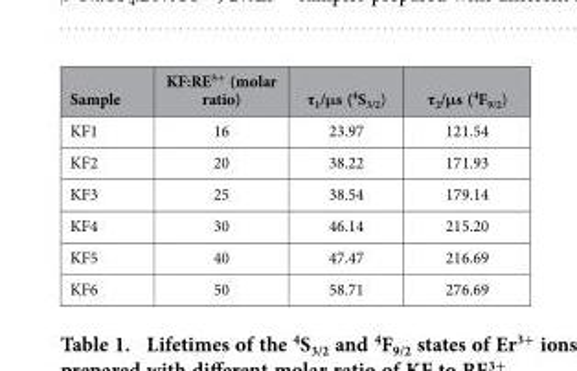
<table><thead><tr><td>Sample</td><td>KF:RE<sup>3+</sup> (molar ratio)</td><td>τ<sub>1</sub>/μs (<sup>4</sup>S<sub>3/2</sub>)</td><td>τ<sub>2</sub>/μs (<sup>4</sup>F<sub>9/2</sub>)</td></tr></thead><tbody><tr><td>KF1</td><td>16</td><td>23.97</td><td>121.54</td></tr><tr><td>KF2</td><td>20</td><td>38.22</td><td>171.93</td></tr><tr><td>KF3</td><td>25</td><td>38.54</td><td>179.14</td></tr><tr><td>KF4</td><td>30</td><td>46.14</td><td>215.20</td></tr><tr><td>KF5</td><td>40</td><td>47.47</td><td>216.69</td></tr><tr><td>KF6</td><td>50</td><td>58.71</td><td>276.69</td></tr></tbody></table>